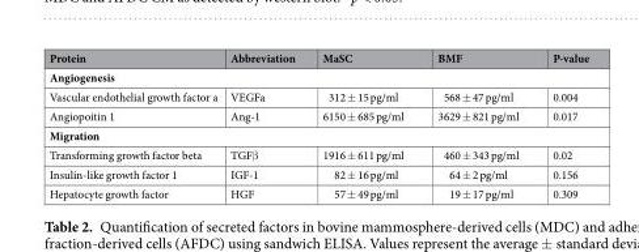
<table><thead><tr><td>Protein</td><td>Abbreviation</td><td>MaSC</td><td>BMF</td><td>P-value</td></tr></thead><tbody><tr><td colspan="5">Angiogenesis</td></tr><tr><td>Vascular endothelial growth factor a</td><td>VEGFa</td><td>312 ± 15 pg/ml</td><td>568 ± 47 pg/ml</td><td>0.004</td></tr><tr><td>Angiopoitin 1</td><td>Ang-1</td><td>6150 ± 685 pg/ml</td><td>3629 ± 821 pg/ml</td><td>0.017</td></tr><tr><td colspan="5">Migration</td></tr><tr><td>Transforming growth factor beta</td><td>TGFβ</td><td>1916 ± 611 pg/ml</td><td>460 ± 343 pg/ml</td><td>0.02</td></tr><tr><td>Insulin-like growth factor 1</td><td>IGF-1</td><td>82 ± 16 pg/ml</td><td>64 ± 2 pg/ml</td><td>0.156</td></tr><tr><td>Hepatocyte growth factor</td><td>HGF</td><td>57 ± 49 pg/ml</td><td>19 ± 17 pg/ml</td><td>0.309</td></tr></tbody></table>